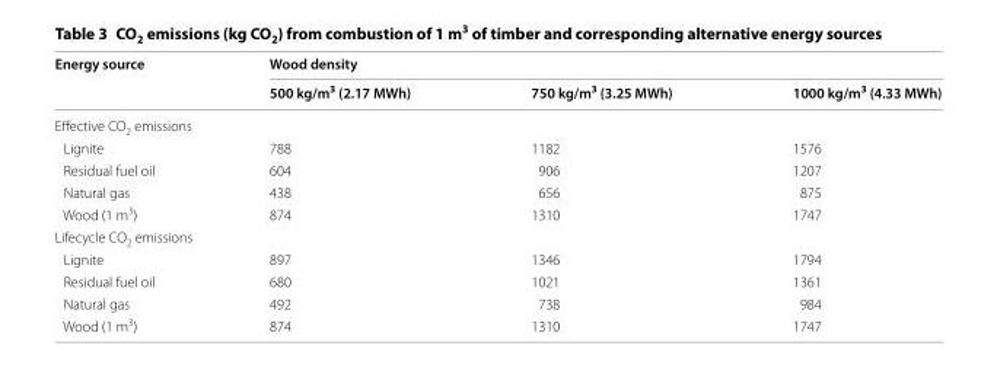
<table><thead><tr><td rowspan="2">Energy source</td><td colspan="3">Wood density</td></tr><tr><td>500 kg/m<sup>3</sup> (2.17 MWh)</td><td>750 kg/m<sup>3</sup> (3.25 MWh)</td><td>1000 kg/m<sup>3</sup> (4.33 MWh)</td></tr></thead><tbody><tr><td colspan="4">Effective CO<sub>2</sub> emissions</td></tr><tr><td>Lignite</td><td>788</td><td>1182</td><td>1576</td></tr><tr><td>Residual fuel oil</td><td>604</td><td>906</td><td>1207</td></tr><tr><td>Natural gas</td><td>438</td><td>656</td><td>875</td></tr><tr><td>Wood (1 m<sup>3</sup>)</td><td>874</td><td>1310</td><td>1747</td></tr><tr><td colspan="4">Lifecycle CO<sub>2</sub> emissions</td></tr><tr><td>Lignite</td><td>897</td><td>1346</td><td>1794</td></tr><tr><td>Residual fuel oil</td><td>680</td><td>1021</td><td>1361</td></tr><tr><td>Natural gas</td><td>492</td><td>738</td><td>984</td></tr><tr><td>Wood (1 m<sup>3</sup>)</td><td>874</td><td>1310</td><td>1747</td></tr></tbody></table>